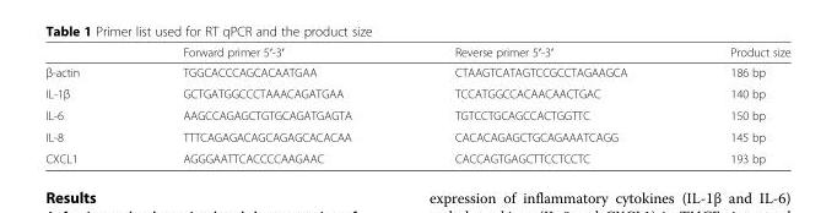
<table><thead><tr><td></td><td>Forward primer 5′-3′</td><td>Reverse primer 5′-3′</td><td>Product size</td></tr></thead><tbody><tr><td>β-actin</td><td>TGGCACCCAGCACAATGAA</td><td>CTAAGTCATAGTCCGCCTAGAAGCA</td><td>186 bp</td></tr><tr><td>IL-1β</td><td>GCTGATGGCCCTAAACAGATGAA</td><td>TCCATGGCCACAACAACTGAC</td><td>140 bp</td></tr><tr><td>IL-6</td><td>AAGCCAGAGCTGTGCAGATGAGTA</td><td>TGTCCTGCAGCCACTGGTTC</td><td>150 bp</td></tr><tr><td>IL-8</td><td>TTTCAGAGACAGCAGAGCACACAA</td><td>CACACAGAGCTGCAGAAATCAGG</td><td>145 bp</td></tr><tr><td>CXCL1</td><td>AGGGAATTCACCCCAAGAAC</td><td>CACCAGTGAGCTTCCTCCTC</td><td>193 bp</td></tr></tbody></table>